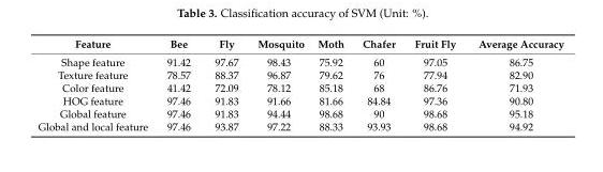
<table><thead><tr><td>Feature</td><td>Bee</td><td>Fly</td><td>Mosquito</td><td>Moth</td><td>Chafer</td><td>Fruit Fly</td><td>Average Accuracy</td></tr></thead><tbody><tr><td>Shape feature</td><td>91.42</td><td>97.67</td><td>98.43</td><td>75.92</td><td>60</td><td>97.05</td><td>86.75</td></tr><tr><td>Texture feature</td><td>78.57</td><td>88.37</td><td>96.87</td><td>79.62</td><td>76</td><td>77.94</td><td>82.90</td></tr><tr><td>Color feature</td><td>41.42</td><td>72.09</td><td>78.12</td><td>85.18</td><td>68</td><td>86.76</td><td>71.93</td></tr><tr><td>HOG feature</td><td>97.46</td><td>91.83</td><td>91.66</td><td>81.66</td><td>84.84</td><td>97.36</td><td>90.80</td></tr><tr><td>Global feature</td><td>97.46</td><td>91.83</td><td>94.44</td><td>98.68</td><td>90</td><td>98.68</td><td>95.18</td></tr><tr><td>Global and local feature</td><td>97.46</td><td>93.87</td><td>97.22</td><td>88.33</td><td>93.93</td><td>98.68</td><td>94.92</td></tr></tbody></table>